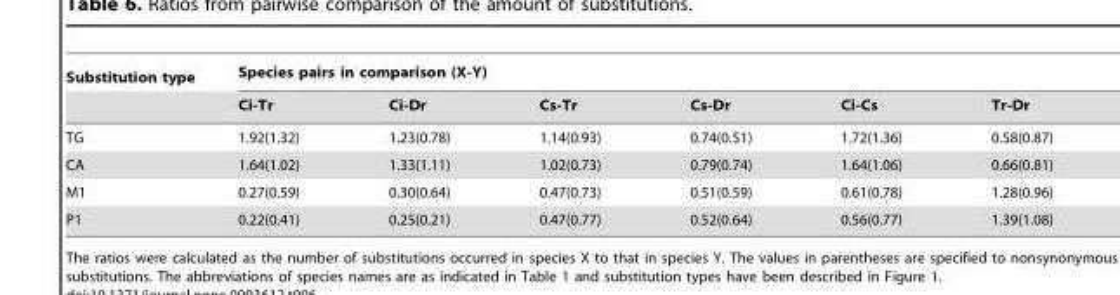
<table><thead><tr><td rowspan="2">Substitution type</td><td colspan="6">Species pairs in comparison (X-Y)</td></tr><tr><td>Ci-Tr</td><td>Ci-Dr</td><td>Cs-Tr</td><td>Cs-Dr</td><td>Ci-Cs</td><td>Tr-Dr</td></tr></thead><tbody><tr><td>TG</td><td>1.92(1.32)</td><td>1.23(0.78)</td><td>1.14(0.93)</td><td>0.74(0.51)</td><td>1.72(1.36)</td><td>0.58(0.87)</td></tr><tr><td>CA</td><td>1.64(1.02)</td><td>1.33(1.11)</td><td>1.02(0.73)</td><td>0.79(0.74)</td><td>1.64(1.06)</td><td>0.66(0.81)</td></tr><tr><td>M1</td><td>0.27(0.59)</td><td>0.30(0.64)</td><td>0.47(0.73)</td><td>0.51(0.59)</td><td>0.61(0.78)</td><td>1.28(0.96)</td></tr><tr><td>P1</td><td>0.22(0.41)</td><td>0.25(0.21)</td><td>0.47(0.77)</td><td>0.52(0.64)</td><td>0.56(0.77)</td><td>1.39(1.08)</td></tr></tbody></table>